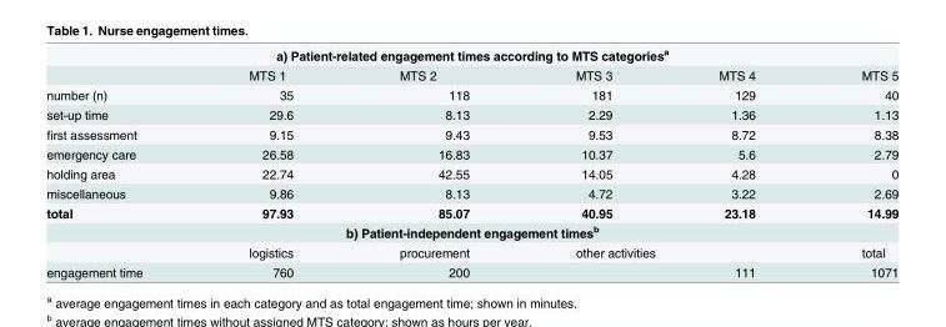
<table><tbody><tr><td colspan="6">a) Patient-related engagement times according to MTS categories<sup>a</sup></td></tr><tr><td></td><td>MTS 1</td><td>MTS 2</td><td>MTS 3</td><td>MTS 4</td><td>MTS 5</td></tr><tr><td>number (n)</td><td>35</td><td>118</td><td>181</td><td>129</td><td>40</td></tr><tr><td>set-up time</td><td>29.6</td><td>8.13</td><td>2.29</td><td>1.36</td><td>1.13</td></tr><tr><td>first assessment</td><td>9.15</td><td>9.43</td><td>9.53</td><td>8.72</td><td>8.38</td></tr><tr><td>emergency care</td><td>26.58</td><td>16.83</td><td>10.37</td><td>5.6</td><td>2.79</td></tr><tr><td>holding area</td><td>22.74</td><td>42.55</td><td>14.05</td><td>4.28</td><td>0</td></tr><tr><td>miscellaneous</td><td>9.86</td><td>8.13</td><td>4.72</td><td>3.22</td><td>2.69</td></tr><tr><td>total</td><td>97.93</td><td>85.07</td><td>40.95</td><td>23.18</td><td>14.99</td></tr><tr><td colspan="6">b) Patient-independent engagement times<sup>b</sup></td></tr><tr><td></td><td>logistics</td><td>procurement</td><td colspan="2">other activities</td><td>total</td></tr><tr><td>engagement time</td><td>760</td><td>200</td><td colspan="2">111</td><td>1071</td></tr></tbody></table>